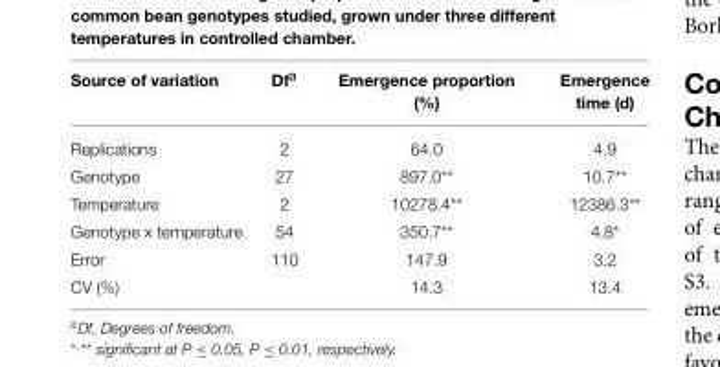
<table><thead><tr><td>Source of variation</td><td>Df<sup>a</sup></td><td>Emergence proportion (%)</td><td>Emergence time (d)</td></tr></thead><tbody><tr><td>Replications</td><td>2</td><td>64.0</td><td>4.9</td></tr><tr><td>Genotype</td><td>27</td><td>897.0**</td><td>10.7**</td></tr><tr><td>Temperature</td><td>2</td><td>10278.4**</td><td>12386.3**</td></tr><tr><td>Genotype x temperature</td><td>54</td><td>350.7**</td><td>4.8*</td></tr><tr><td>Error</td><td>110</td><td>147.9</td><td>3.2</td></tr><tr><td>CV (%)</td><td></td><td>14.3</td><td>13.4</td></tr></tbody></table>